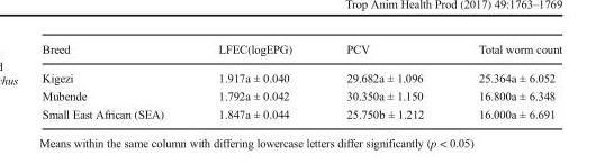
<table><thead><tr><td>Breed</td><td>LFEC(logEPG)</td><td>PCV</td><td>Total worm count</td></tr></thead><tbody><tr><td>Kigezi</td><td>1.917a ± 0.040</td><td>29.682a ± 1.096</td><td>25.364a ± 6.052</td></tr><tr><td>Mubende</td><td>1.792a ± 0.042</td><td>30.350a ± 1.150</td><td>16.800a ± 6.348</td></tr><tr><td>Small East African (SEA)</td><td>1.847a ± 0.044</td><td>25.750b ± 1.212</td><td>16.000a ± 6.691</td></tr></tbody></table>